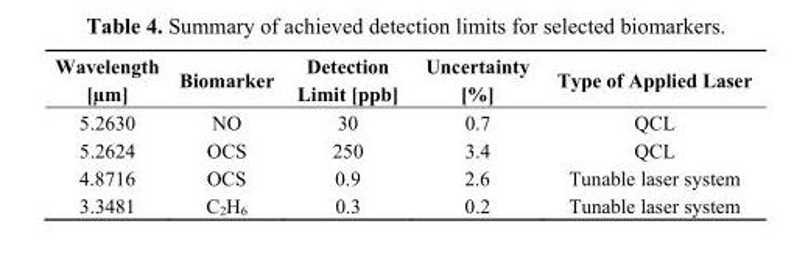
<table><thead><tr><td>Wavelength [µm]</td><td>Biomarker</td><td>Detection Limit [ppb]</td><td>Uncertainty [%]</td><td>Type of Applied Laser</td></tr></thead><tbody><tr><td>5.2630</td><td>NO</td><td>30</td><td>0.7</td><td>QCL</td></tr><tr><td>5.2624</td><td>OCS</td><td>250</td><td>3.4</td><td>QCL</td></tr><tr><td>4.8716</td><td>OCS</td><td>0.9</td><td>2.6</td><td>Tunable laser system</td></tr><tr><td>3.3481</td><td>C<sub>2</sub>H<sub>6</sub></td><td>0.3</td><td>0.2</td><td>Tunable laser system</td></tr></tbody></table>